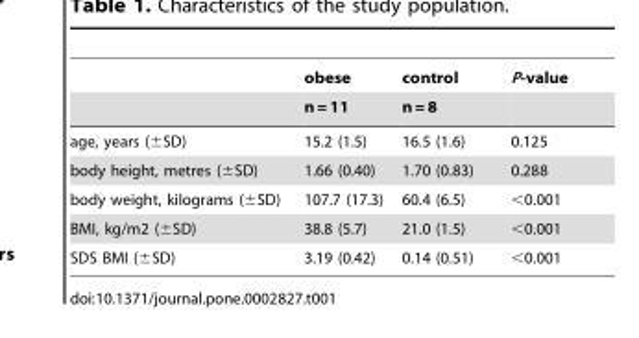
<table><thead><tr><td rowspan="2"></td><td rowspan="2">obese n = 11</td><td rowspan="2">control n = 8</td><td rowspan="2">P-value</td></tr><tr></tr></thead><tbody><tr><td>age, years (±SD)</td><td>15.2 (1.5)</td><td>16.5 (1.6)</td><td>0.125</td></tr><tr><td>body height, metres (±SD)</td><td>1.66 (0.40)</td><td>1.70 (0.83)</td><td>0.288</td></tr><tr><td>body weight, kilograms (±SD)</td><td>107.7 (17.3)</td><td>60.4 (6.5)</td><td>&lt;0.001</td></tr><tr><td>BMI, kg/m2 (±SD)</td><td>38.8 (5.7)</td><td>21.0 (1.5)</td><td>&lt;0.001</td></tr><tr><td>SDS BMI (±SD)</td><td>3.19 (0.42)</td><td>0.14 (0.51)</td><td>&lt;0.001</td></tr></tbody></table>